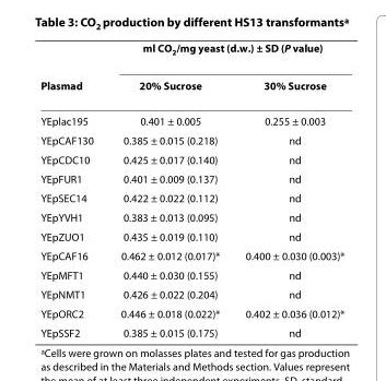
<table><thead><tr><td rowspan="2">Plasmad</td><td colspan="2">ml CO<sub>2</sub>/mg yeast (d.w.) ± SD (P value)</td></tr><tr><td>20% Sucrose</td><td>30% Sucrose</td></tr></thead><tbody><tr><td>YEplac195</td><td>0.401 ± 0.005</td><td>0.255 ± 0.003</td></tr><tr><td>YEpCAF130</td><td>0.385 ± 0.015 (0.218)</td><td>nd</td></tr><tr><td>YEpCDC10</td><td>0.425 ± 0.017 (0.140)</td><td>nd</td></tr><tr><td>YEpFUR1</td><td>0.401 ± 0.009 (0.137)</td><td>nd</td></tr><tr><td>YEpSEC14</td><td>0.422 ± 0.022 (0.112)</td><td>nd</td></tr><tr><td>YEpYVH1</td><td>0.383 ± 0.013 (0.095)</td><td>nd</td></tr><tr><td>YEpZUO1</td><td>0.435 ± 0.019 (0.110)</td><td>nd</td></tr><tr><td>YEpCAF16</td><td>0.462 ± 0.012 (0.017)*</td><td>0.400 ± 0.030 (0.003)*</td></tr><tr><td>YEpMFT1</td><td>0.440 ± 0.030 (0.155)</td><td>nd</td></tr><tr><td>YEpNMT1</td><td>0.426 ± 0.022 (0.204)</td><td>nd</td></tr><tr><td>YEpORC2</td><td>0.446 ± 0.018 (0.022)*</td><td>0.402 ± 0.036 (0.012)*</td></tr><tr><td>YEpSSF2</td><td>0.385 ± 0.015 (0.175)</td><td>nd</td></tr></tbody></table>